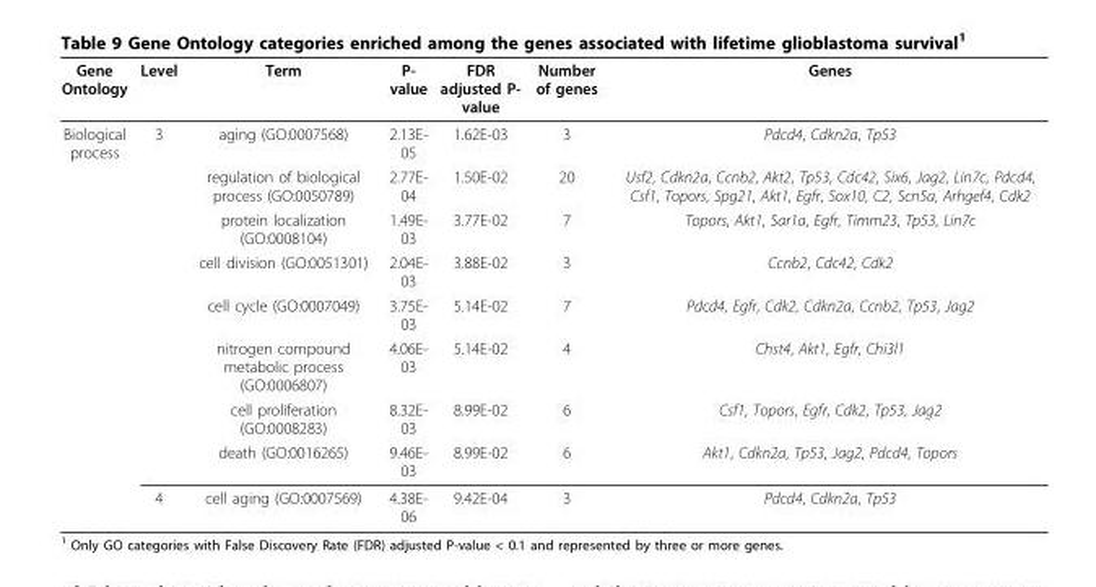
<table><thead><tr><td>Gene Ontology</td><td>Level</td><td>Term</td><td>P- value</td><td>FDR adjusted P- value</td><td>Number of genes</td><td>Genes</td></tr></thead><tbody><tr><td rowspan="9">Biological process</td><td>3</td><td>aging (GO:0007568)</td><td>2.13E- 05</td><td>1.62E-03</td><td>3</td><td>Pdcd4, Cdkn2a, Tp53</td></tr><tr><td></td><td>regulation of biological process (GO:0050789)</td><td>2.77E- 04</td><td>1.50E-02</td><td>20</td><td>Usf2, Cdkn2a, Ccnb2, Akt2, Tp53, Cdc42, Six6, Jag2, Lin7c, Pdcd4, Csf1, Topors, Spg21, Akt1, Egfr, Sox10, C2, Scn5a, Arhgef4, Cdk2</td></tr><tr><td></td><td>protein localization (GO:0008104)</td><td>1.49E- 03</td><td>3.77E-02</td><td>7</td><td>Topors, Akt1, Sar1a, Egfr, Timm23, Tp53, Lin7c</td></tr><tr><td></td><td>cell division (GO:0051301)</td><td>2.04E- 03</td><td>3.88E-02</td><td>3</td><td>Ccnb2, Cdc42, Cdk2</td></tr><tr><td></td><td>cell cycle (GO:0007049)</td><td>3.75E- 03</td><td>5.14E-02</td><td>7</td><td>Pdcd4, Egfr, Cdk2, Cdkn2a, Ccnb2, Tp53, Jag2</td></tr><tr><td></td><td>nitrogen compound metabolic process (GO:0006807)</td><td>4.06E- 03</td><td>5.14E-02</td><td>4</td><td>Chst4, Akt1, Egfr, Chi3l1</td></tr><tr><td></td><td>cell proliferation (GO:0008283)</td><td>8.32E- 03</td><td>8.99E-02</td><td>6</td><td>Csf1, Topors, Egfr, Cdk2, Tp53, Jag2</td></tr><tr><td></td><td>death (GO:0016265)</td><td>9.46E- 03</td><td>8.99E-02</td><td>6</td><td>Akt1, Cdkn2a, Tp53, Jag2, Pdcd4, Topors</td></tr><tr><td>4</td><td>cell aging (GO:0007569)</td><td>4.38E- 06</td><td>9.42E-04</td><td>3</td><td>Pdcd4, Cdkn2a, Tp53</td></tr></tbody></table>